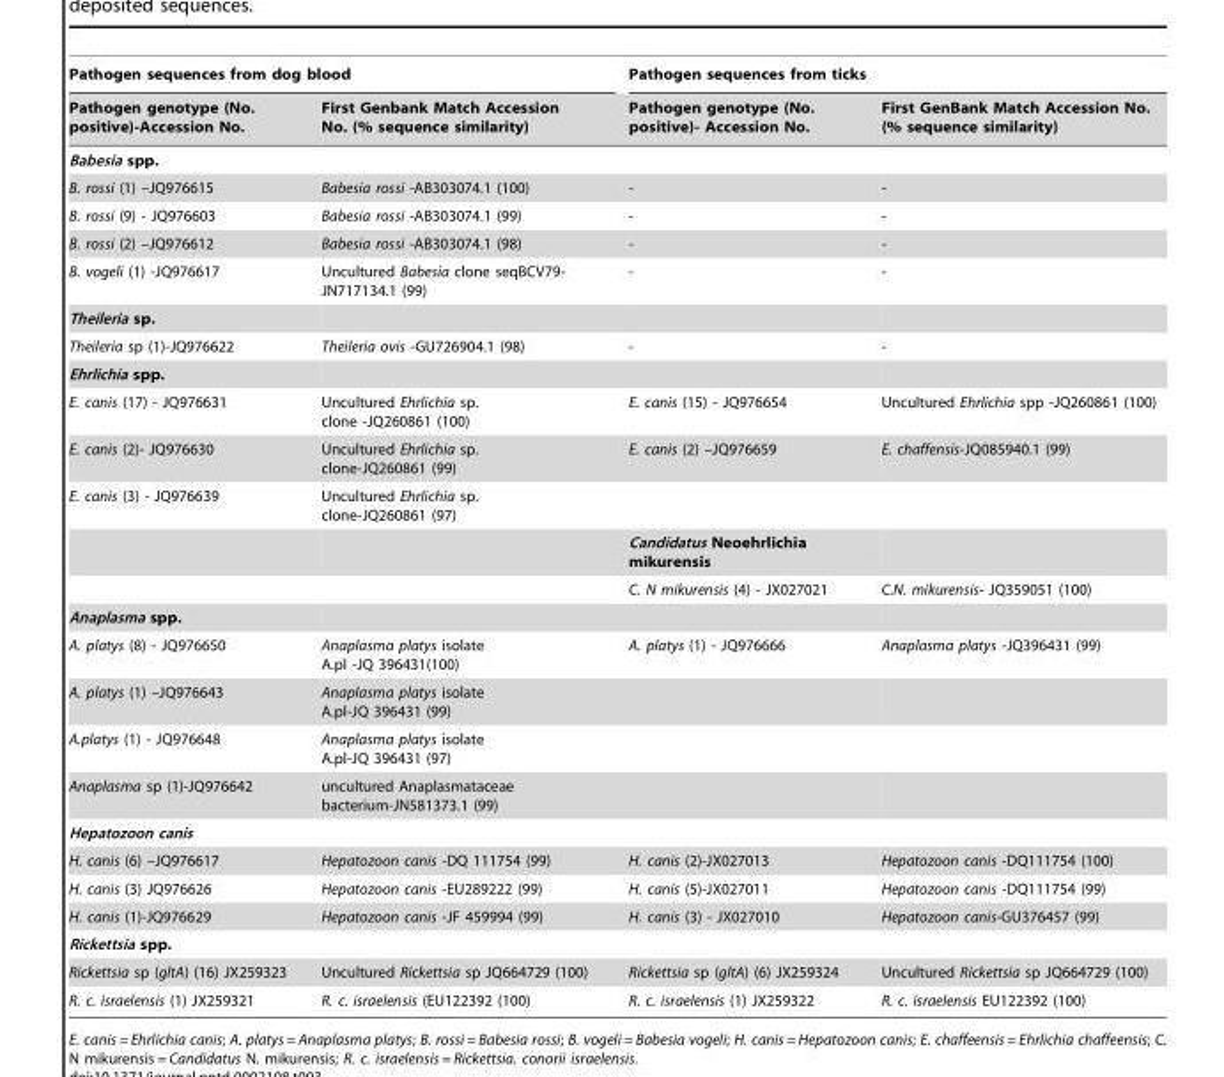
<table><thead><tr><td colspan="2">Pathogen sequences from dog blood</td><td colspan="2">Pathogen sequences from ticks</td></tr><tr><td>Pathogen genotype (No. positive)-Accession No.</td><td>First Genbank Match Accession No. (% sequence similarity)</td><td>Pathogen genotype (No. positive)- Accession No.</td><td>First GenBank Match Accession No. (% sequence similarity)</td></tr></thead><tbody><tr><td colspan="4">Babesia spp.</td></tr><tr><td>B. rossi (1) –JQ976615</td><td>Babesia rossi -AB303074.1 (100)</td><td>-</td><td>-</td></tr><tr><td>B. rossi (9) - JQ976603</td><td>Babesia rossi -AB303074.1 (99)</td><td>-</td><td>-</td></tr><tr><td>B. rossi (2) –JQ976612</td><td>Babesia rossi -AB303074.1 (98)</td><td>-</td><td>-</td></tr><tr><td>B. vogeli (1) -JQ976617</td><td>Uncultured Babesia clone seqBCV79- JN717134.1 (99)</td><td>-</td><td>-</td></tr><tr><td colspan="4">Theileria sp.</td></tr><tr><td>Theileria sp (1)-JQ976622</td><td>Theileria ovis -GU726904.1 (98)</td><td>-</td><td>-</td></tr><tr><td colspan="4">Ehrlichia spp.</td></tr><tr><td>E. canis (17) - JQ976631</td><td>Uncultured Ehrlichia sp. clone -JQ260861 (100)</td><td>E. canis (15) - JQ976654</td><td>Uncultured Ehrlichia spp -JQ260861 (100)</td></tr><tr><td>E. canis (2)- JQ976630</td><td>Uncultured Ehrlichia sp. clone-JQ260861 (99)</td><td>E. canis (2) –JQ976659</td><td>E. chaffensis-JQ085940.1 (99)</td></tr><tr><td rowspan="3">E. canis (3) - JQ976639</td><td>Uncultured Ehrlichia sp. clone-JQ260861 (97)</td><td></td><td></td></tr><tr><td></td><td>Candidatus Neoehrlichia mikurensis</td><td></td></tr><tr><td></td><td>C. N mikurensis (4) - JX027021</td><td>C.N. mikurensis- JQ359051 (100)</td></tr><tr><td colspan="4">Anaplasma spp.</td></tr><tr><td>A. platys (8) - JQ976650</td><td>Anaplasma platys isolate A.pl -JQ 396431(100)</td><td>A. platys (1) - JQ976666</td><td>Anaplasma platys -JQ396431 (99)</td></tr><tr><td>A. platys (1) –JQ976643</td><td>Anaplasma platys isolate A.pl-JQ 396431 (99)</td><td></td><td></td></tr><tr><td>A.platys (1) - JQ976648</td><td>Anaplasma platys isolate A.pl-JQ 396431 (97)</td><td></td><td></td></tr><tr><td>Anaplasma sp (1)-JQ976642</td><td>uncultured Anaplasmataceae bacterium-JN581373.1 (99)</td><td></td><td></td></tr><tr><td colspan="4">Hepatozoon canis</td></tr><tr><td>H. canis (6) –JQ976617</td><td>Hepatozoon canis -DQ 111754 (99)</td><td>H. canis (2)-JX027013</td><td>Hepatozoon canis -DQ111754 (100)</td></tr><tr><td>H. canis (3) JQ976626</td><td>Hepatozoon canis -EU289222 (99)</td><td>H. canis (5)-JX027011</td><td>Hepatozoon canis -DQ111754 (99)</td></tr><tr><td>H. canis (1)-JQ976629</td><td>Hepatozoon canis -JF 459994 (99)</td><td>H. canis (3) - JX027010</td><td>Hepatozoon canis-GU376457 (99)</td></tr><tr><td colspan="4">Rickettsia spp.</td></tr><tr><td>Rickettsia sp (gltA) (16) JX259323</td><td>Uncultured Rickettsia sp JQ664729 (100)</td><td>Rickettsia sp (gltA) (6) JX259324</td><td>Uncultured Rickettsia sp JQ664729 (100)</td></tr><tr><td>R. c. israelensis (1) JX259321</td><td>R. c. israelensis (EU122392 (100)</td><td>R. c. israelensis (1) JX259322</td><td>R. c. israelensis EU122392 (100)</td></tr></tbody></table>